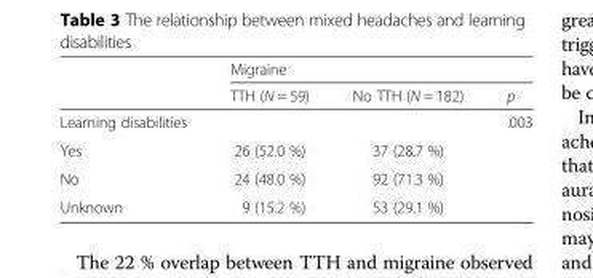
<table><thead><tr><td rowspan="2"></td><td colspan="3">Migraine</td></tr><tr><td>TTH (N = 59)</td><td>No TTH (N = 182)</td><td>p</td></tr></thead><tbody><tr><td>Learning disabilities</td><td></td><td></td><td>.003</td></tr><tr><td>Yes</td><td>26 (52.0 %)</td><td>37 (28.7 %)</td><td></td></tr><tr><td>No</td><td>24 (48.0 %)</td><td>92 (71.3 %)</td><td></td></tr><tr><td>Unknown</td><td>9 (15.2 %)</td><td>53 (29.1 %)</td><td></td></tr></tbody></table>